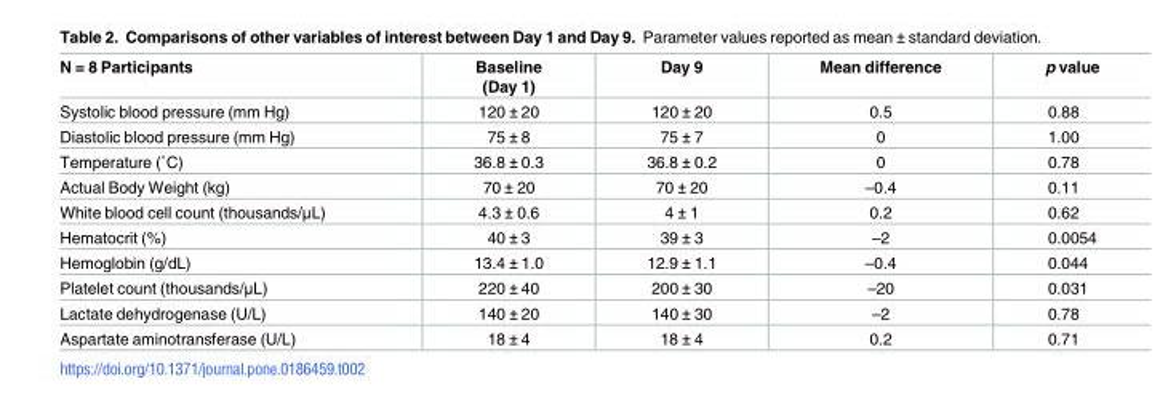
<table><thead><tr><td>N = 8 Participants</td><td>Baseline (Day 1)</td><td>Day 9</td><td>Mean difference</td><td>p value</td></tr></thead><tbody><tr><td>Systolic blood pressure (mm Hg)</td><td>120 ± 20</td><td>120 ± 20</td><td>0.5</td><td>0.88</td></tr><tr><td>Diastolic blood pressure (mm Hg)</td><td>75 ± 8</td><td>75 ± 7</td><td>0</td><td>1.00</td></tr><tr><td>Temperature (˚C)</td><td>36.8 ± 0.3</td><td>36.8 ± 0.2</td><td>0</td><td>0.78</td></tr><tr><td>Actual Body Weight (kg)</td><td>70 ± 20</td><td>70 ± 20</td><td>–0.4</td><td>0.11</td></tr><tr><td>White blood cell count (thousands/μL)</td><td>4.3 ± 0.6</td><td>4 ± 1</td><td>0.2</td><td>0.62</td></tr><tr><td>Hematocrit (%)</td><td>40 ± 3</td><td>39 ± 3</td><td>–2</td><td>0.0054</td></tr><tr><td>Hemoglobin (g/dL)</td><td>13.4 ± 1.0</td><td>12.9 ± 1.1</td><td>–0.4</td><td>0.044</td></tr><tr><td>Platelet count (thousands/μL)</td><td>220 ± 40</td><td>200 ± 30</td><td>–20</td><td>0.031</td></tr><tr><td>Lactate dehydrogenase (U/L)</td><td>140 ± 20</td><td>140 ± 30</td><td>–2</td><td>0.78</td></tr><tr><td>Aspartate aminotransferase (U/L)</td><td>18 ± 4</td><td>18 ± 4</td><td>0.2</td><td>0.71</td></tr></tbody></table>